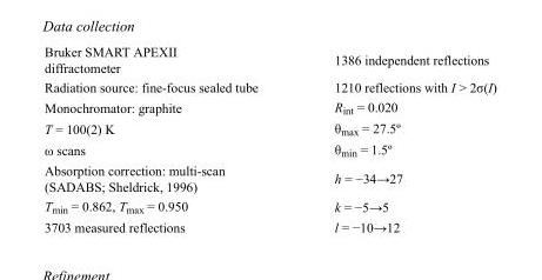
<table><tbody><tr><td>Bruker SMART APEXII diffractometer</td><td>1386 independent reflections</td></tr><tr><td>Radiation source: fine-focus sealed tube</td><td>1210 reflections with I &gt; 2σ(I)</td></tr><tr><td>Monochromator: graphite</td><td>R<sub>int</sub> = 0.020</td></tr><tr><td>T = 100(2) K</td><td>θ<sub>max</sub> = 27.5º</td></tr><tr><td>ω scans</td><td>θ<sub>min</sub> = 1.5º</td></tr><tr><td>Absorption correction: multi-scan (SADABS; Sheldrick, 1996)</td><td>h = −34→27</td></tr><tr><td>T<sub>min</sub> = 0.862, T<sub>max</sub> = 0.950</td><td>k = −5→5</td></tr><tr><td>3703 measured reflections</td><td>l = −10→12</td></tr></tbody></table>